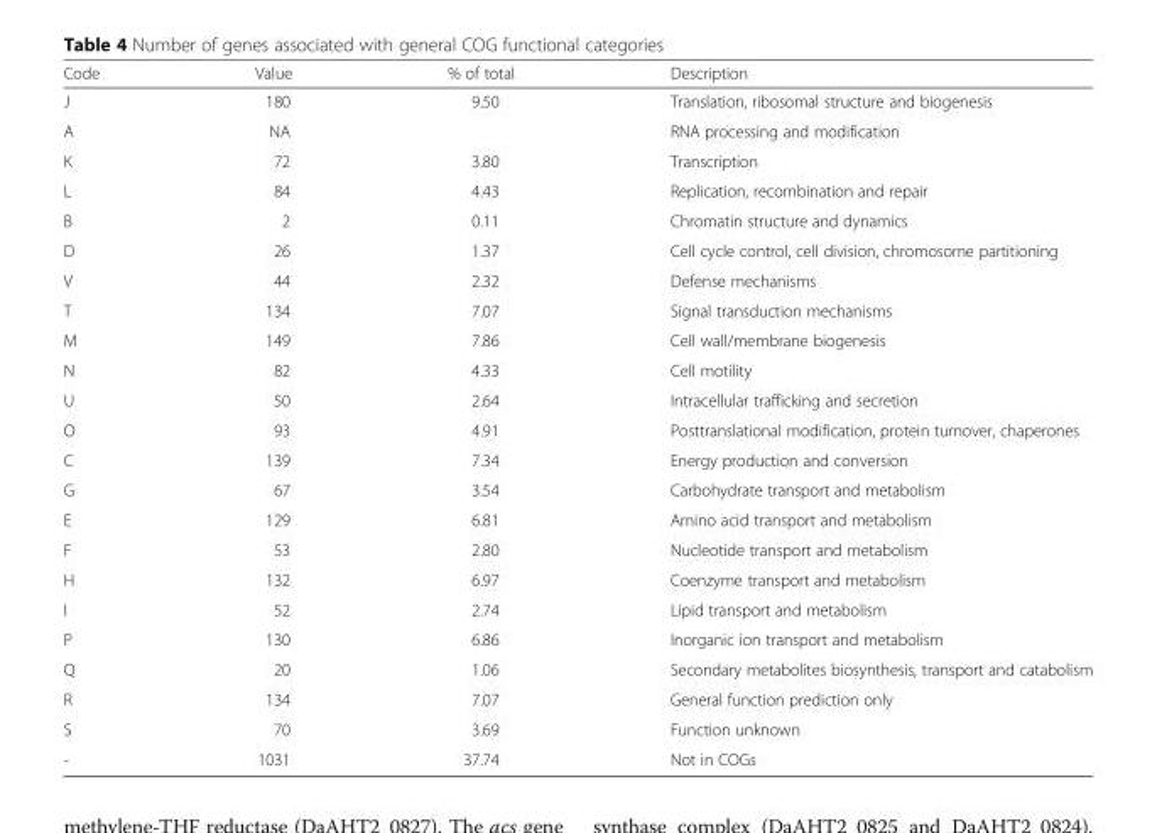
<table><thead><tr><td>Code</td><td>Value</td><td>% of total</td><td>Description</td></tr></thead><tbody><tr><td>J</td><td>180</td><td>9.50</td><td>Translation, ribosomal structure and biogenesis</td></tr><tr><td>A</td><td>NA</td><td></td><td>RNA processing and modification</td></tr><tr><td>K</td><td>72</td><td>3.80</td><td>Transcription</td></tr><tr><td>L</td><td>84</td><td>4.43</td><td>Replication, recombination and repair</td></tr><tr><td>B</td><td>2</td><td>0.11</td><td>Chromatin structure and dynamics</td></tr><tr><td>D</td><td>26</td><td>1.37</td><td>Cell cycle control, cell division, chromosome partitioning</td></tr><tr><td>V</td><td>44</td><td>2.32</td><td>Defense mechanisms</td></tr><tr><td>T</td><td>134</td><td>7.07</td><td>Signal transduction mechanisms</td></tr><tr><td>M</td><td>149</td><td>7.86</td><td>Cell wall/membrane biogenesis</td></tr><tr><td>N</td><td>82</td><td>4.33</td><td>Cell motility</td></tr><tr><td>U</td><td>50</td><td>2.64</td><td>Intracellular trafficking and secretion</td></tr><tr><td>O</td><td>93</td><td>4.91</td><td>Posttranslational modification, protein turnover, chaperones</td></tr><tr><td>C</td><td>139</td><td>7.34</td><td>Energy production and conversion</td></tr><tr><td>G</td><td>67</td><td>3.54</td><td>Carbohydrate transport and metabolism</td></tr><tr><td>E</td><td>129</td><td>6.81</td><td>Amino acid transport and metabolism</td></tr><tr><td>F</td><td>53</td><td>2.80</td><td>Nucleotide transport and metabolism</td></tr><tr><td>H</td><td>132</td><td>6.97</td><td>Coenzyme transport and metabolism</td></tr><tr><td>I</td><td>52</td><td>2.74</td><td>Lipid transport and metabolism</td></tr><tr><td>P</td><td>130</td><td>6.86</td><td>Inorganic ion transport and metabolism</td></tr><tr><td>Q</td><td>20</td><td>1.06</td><td>Secondary metabolites biosynthesis, transport and catabolism</td></tr><tr><td>R</td><td>134</td><td>7.07</td><td>General function prediction only</td></tr><tr><td>S</td><td>70</td><td>3.69</td><td>Function unknown</td></tr><tr><td>-</td><td>1031</td><td>37.74</td><td>Not in COGs</td></tr></tbody></table>